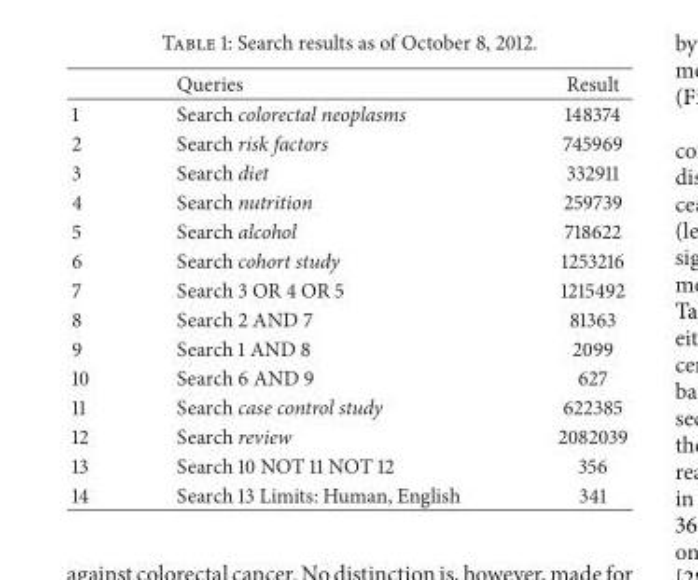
<table><thead><tr><td></td><td>Queries</td><td>Result</td></tr></thead><tbody><tr><td>1</td><td>Search colorectal neoplasms</td><td>148374</td></tr><tr><td>2</td><td>Search risk factors</td><td>745969</td></tr><tr><td>3</td><td>Search diet</td><td>332911</td></tr><tr><td>4</td><td>Search nutrition</td><td>259739</td></tr><tr><td>5</td><td>Search alcohol</td><td>718622</td></tr><tr><td>6</td><td>Search cohort study</td><td>1253216</td></tr><tr><td>7</td><td>Search 3 OR 4 OR 5</td><td>1215492</td></tr><tr><td>8</td><td>Search 2 AND 7</td><td>81363</td></tr><tr><td>9</td><td>Search 1 AND 8</td><td>2099</td></tr><tr><td>10</td><td>Search 6 AND 9</td><td>627</td></tr><tr><td>11</td><td>Search case control study</td><td>622385</td></tr><tr><td>12</td><td>Search review</td><td>2082039</td></tr><tr><td>13</td><td>Search 10 NOT 11 NOT 12</td><td>356</td></tr><tr><td>14</td><td>Search 13 Limits: Human, English</td><td>341</td></tr></tbody></table>